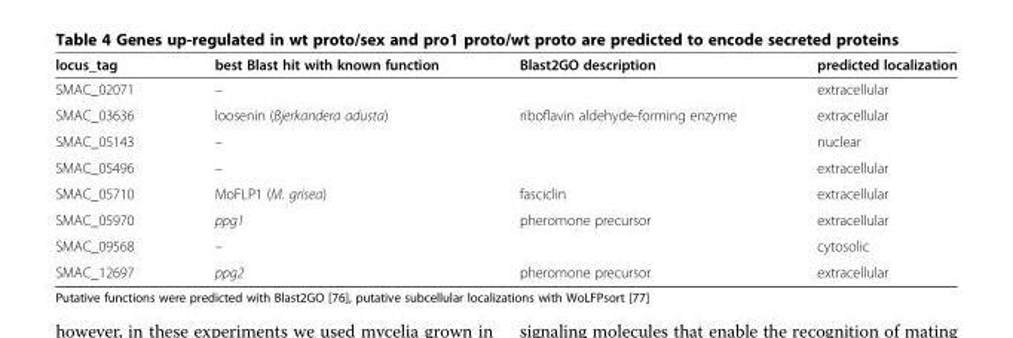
<table><thead><tr><td>locus_tag</td><td>best Blast hit with known function</td><td>Blast2GO description</td><td>predicted localization</td></tr></thead><tbody><tr><td>SMAC_02071</td><td>–</td><td></td><td>extracellular</td></tr><tr><td>SMAC_03636</td><td>loosenin (Bjerkandera adusta)</td><td>riboflavin aldehyde-forming enzyme</td><td>extracellular</td></tr><tr><td>SMAC_05143</td><td>–</td><td></td><td>nuclear</td></tr><tr><td>SMAC_05496</td><td>–</td><td></td><td>extracellular</td></tr><tr><td>SMAC_05710</td><td>MoFLP1 (M. grisea)</td><td>fasciclin</td><td>extracellular</td></tr><tr><td>SMAC_05970</td><td>ppg1</td><td>pheromone precursor</td><td>extracellular</td></tr><tr><td>SMAC_09568</td><td>–</td><td></td><td>cytosolic</td></tr><tr><td>SMAC_12697</td><td>ppg2</td><td>pheromone precursor</td><td>extracellular</td></tr></tbody></table>